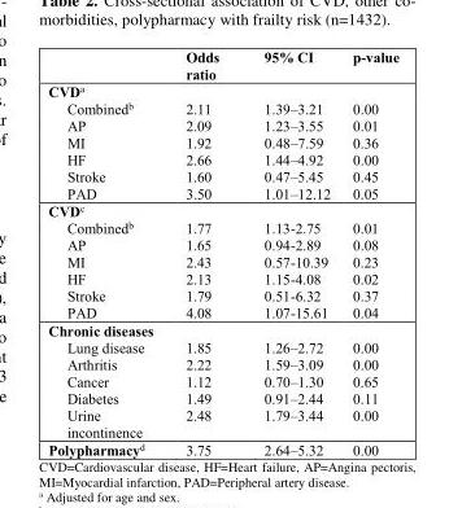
<table><thead><tr><td></td><td>Odds ratio</td><td>95% CI</td><td>p-value</td></tr></thead><tbody><tr><td colspan="4">CVD<sup>a</sup></td></tr><tr><td>Combined<sup>b</sup></td><td>2.11</td><td>1.39–3.21</td><td>0.00</td></tr><tr><td>AP</td><td>2.09</td><td>1.23–3.55</td><td>0.01</td></tr><tr><td>MI</td><td>1.92</td><td>0.48–7.59</td><td>0.36</td></tr><tr><td>HF</td><td>2.66</td><td>1.44–4.92</td><td>0.00</td></tr><tr><td>Stroke</td><td>1.60</td><td>0.47–5.45</td><td>0.45</td></tr><tr><td>PAD</td><td>3.50</td><td>1.01–12.12</td><td>0.05</td></tr><tr><td colspan="4">CVD<sup>c</sup></td></tr><tr><td>Combined<sup>b</sup></td><td>1.77</td><td>1.13-2.75</td><td>0.01</td></tr><tr><td>AP</td><td>1.65</td><td>0.94-2.89</td><td>0.08</td></tr><tr><td>MI</td><td>2.43</td><td>0.57-10.39</td><td>0.23</td></tr><tr><td>HF</td><td>2.13</td><td>1.15-4.08</td><td>0.02</td></tr><tr><td>Stroke</td><td>1.79</td><td>0.51-6.32</td><td>0.37</td></tr><tr><td>PAD</td><td>4.08</td><td>1.07-15.61</td><td>0.04</td></tr><tr><td colspan="4">Chronic diseases</td></tr><tr><td>Lung disease</td><td>1.85</td><td>1.26–2.72</td><td>0.00</td></tr><tr><td>Arthritis</td><td>2.22</td><td>1.59–3.09</td><td>0.00</td></tr><tr><td>Cancer</td><td>1.12</td><td>0.70–1.30</td><td>0.65</td></tr><tr><td>Diabetes</td><td>1.49</td><td>0.91–2.44</td><td>0.11</td></tr><tr><td>Urine incontinence</td><td>2.48</td><td>1.79–3.44</td><td>0.00</td></tr><tr><td>Polypharmacy<sup>d</sup></td><td>3.75</td><td>2.64–5.32</td><td>0.00</td></tr></tbody></table>